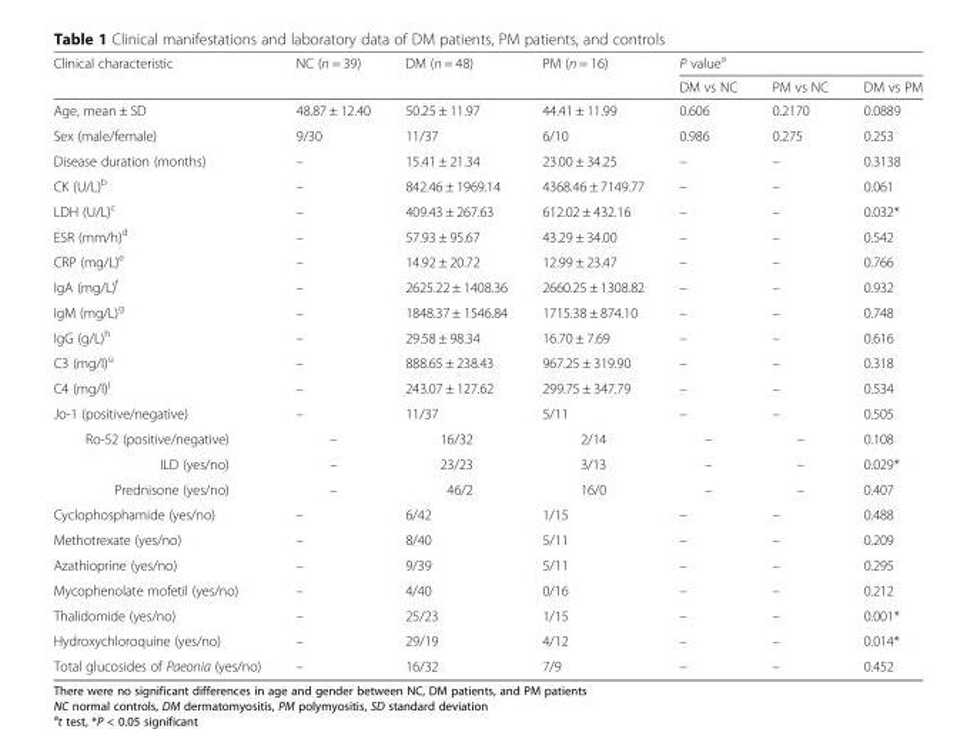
<table><thead><tr><td rowspan="2">Clinical characteristic</td><td rowspan="2">NC (n = 39)</td><td rowspan="2">DM (n = 48)</td><td rowspan="2">PM (n = 16)</td><td colspan="3">P value<sup>a</sup></td></tr><tr><td>DM vs NC</td><td>PM vs NC</td><td>DM vs PM</td></tr></thead><tbody><tr><td>Age, mean ± SD</td><td>48.87 ± 12.40</td><td>50.25 ± 11.97</td><td>44.41 ± 11.99</td><td>0.606</td><td>0.2170</td><td>0.0889</td></tr><tr><td>Sex (male/female)</td><td>9/30</td><td>11/37</td><td>6/10</td><td>0.986</td><td>0.275</td><td>0.253</td></tr><tr><td>Disease duration (months)</td><td>–</td><td>15.41 ± 21.34</td><td>23.00 ± 34.25</td><td>–</td><td>–</td><td>0.3138</td></tr><tr><td>CK (U/L)<sup>b</sup></td><td>–</td><td>842.46 ± 1969.14</td><td>4368.46 ± 7149.77</td><td>–</td><td>–</td><td>0.061</td></tr><tr><td>LDH (U/L)<sup>c</sup></td><td>–</td><td>409.43 ± 267.63</td><td>612.02 ± 432.16</td><td>–</td><td>–</td><td>0.032*</td></tr><tr><td>ESR (mm/h)<sup>d</sup></td><td>–</td><td>57.93 ± 95.67</td><td>43.29 ± 34.00</td><td>–</td><td>–</td><td>0.542</td></tr><tr><td>CRP (mg/L)<sup>e</sup></td><td>–</td><td>14.92 ± 20.72</td><td>12.99 ± 23.47</td><td>–</td><td>–</td><td>0.766</td></tr><tr><td>IgA (mg/L)<sup>f</sup></td><td>–</td><td>2625.22 ± 1408.36</td><td>2660.25 ± 1308.82</td><td>–</td><td>–</td><td>0.932</td></tr><tr><td>IgM (mg/L)<sup>g</sup></td><td>–</td><td>1848.37 ± 1546.84</td><td>1715.38 ± 874.10</td><td>–</td><td>–</td><td>0.748</td></tr><tr><td>IgG (g/L)<sup>h</sup></td><td>–</td><td>29.58 ± 98.34</td><td>16.70 ± 7.69</td><td>–</td><td>–</td><td>0.616</td></tr><tr><td>C3 (mg/l)<sup>u</sup></td><td>–</td><td>888.65 ± 238.43</td><td>967.25 ± 319.90</td><td>–</td><td>–</td><td>0.318</td></tr><tr><td>C4 (mg/l)<sup>j</sup></td><td>–</td><td>243.07 ± 127.62</td><td>299.75 ± 347.79</td><td>–</td><td>–</td><td>0.534</td></tr><tr><td>Jo-1 (positive/negative)</td><td>–</td><td>11/37</td><td>5/11</td><td>–</td><td>–</td><td>0.505</td></tr><tr><td>Ro-52 (positive/negative)</td><td>–</td><td>16/32</td><td>2/14</td><td>–</td><td>–</td><td>0.108</td></tr><tr><td>ILD (yes/no)</td><td>–</td><td>23/23</td><td>3/13</td><td>–</td><td>–</td><td>0.029*</td></tr><tr><td>Prednisone (yes/no)</td><td>–</td><td>46/2</td><td>16/0</td><td>–</td><td>–</td><td>0.407</td></tr><tr><td>Cyclophosphamide (yes/no)</td><td>–</td><td>6/42</td><td>1/15</td><td>–</td><td>–</td><td>0.488</td></tr><tr><td>Methotrexate (yes/no)</td><td>–</td><td>8/40</td><td>5/11</td><td>–</td><td>–</td><td>0.209</td></tr><tr><td>Azathioprine (yes/no)</td><td>–</td><td>9/39</td><td>5/11</td><td>–</td><td>–</td><td>0.295</td></tr><tr><td>Mycophenolate mofetil (yes/no)</td><td>–</td><td>4/40</td><td>0/16</td><td>–</td><td>–</td><td>0.212</td></tr><tr><td>Thalidomide (yes/no)</td><td>–</td><td>25/23</td><td>1/15</td><td>–</td><td>–</td><td>0.001*</td></tr><tr><td>Hydroxychloroquine (yes/no)</td><td>–</td><td>29/19</td><td>4/12</td><td>–</td><td>–</td><td>0.014*</td></tr><tr><td>Total glucosides of Paeonia (yes/no)</td><td>–</td><td>16/32</td><td>7/9</td><td>–</td><td>–</td><td>0.452</td></tr></tbody></table>